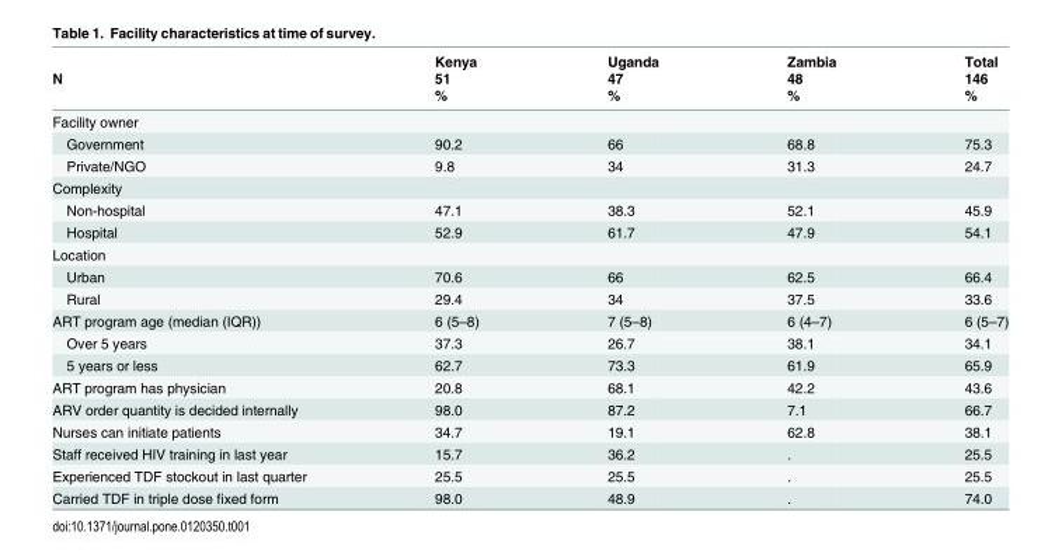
<table><thead><tr><td rowspan="3">N</td><td rowspan="3">Kenya 51 %</td><td rowspan="3">Uganda 47 %</td><td rowspan="3">Zambia 48 %</td><td rowspan="3">Total 146 %</td></tr><tr></tr><tr></tr></thead><tbody><tr><td colspan="5">Facility owner</td></tr><tr><td>Government</td><td>90.2</td><td>66</td><td>68.8</td><td>75.3</td></tr><tr><td>Private/NGO</td><td>9.8</td><td>34</td><td>31.3</td><td>24.7</td></tr><tr><td colspan="5">Complexity</td></tr><tr><td>Non-hospital</td><td>47.1</td><td>38.3</td><td>52.1</td><td>45.9</td></tr><tr><td>Hospital</td><td>52.9</td><td>61.7</td><td>47.9</td><td>54.1</td></tr><tr><td colspan="5">Location</td></tr><tr><td>Urban</td><td>70.6</td><td>66</td><td>62.5</td><td>66.4</td></tr><tr><td>Rural</td><td>29.4</td><td>34</td><td>37.5</td><td>33.6</td></tr><tr><td>ART program age (median (IQR))</td><td>6 (5–8)</td><td>7 (5–8)</td><td>6 (4–7)</td><td>6 (5–7)</td></tr><tr><td>Over 5 years</td><td>37.3</td><td>26.7</td><td>38.1</td><td>34.1</td></tr><tr><td>5 years or less</td><td>62.7</td><td>73.3</td><td>61.9</td><td>65.9</td></tr><tr><td>ART program has physician</td><td>20.8</td><td>68.1</td><td>42.2</td><td>43.6</td></tr><tr><td>ARV order quantity is decided internally</td><td>98.0</td><td>87.2</td><td>7.1</td><td>66.7</td></tr><tr><td>Nurses can initiate patients</td><td>34.7</td><td>19.1</td><td>62.8</td><td>38.1</td></tr><tr><td>Staff received HIV training in last year</td><td>15.7</td><td>36.2</td><td>.</td><td>25.5</td></tr><tr><td>Experienced TDF stockout in last quarter</td><td>25.5</td><td>25.5</td><td>.</td><td>25.5</td></tr><tr><td>Carried TDF in triple dose fixed form</td><td>98.0</td><td>48.9</td><td>.</td><td>74.0</td></tr></tbody></table>